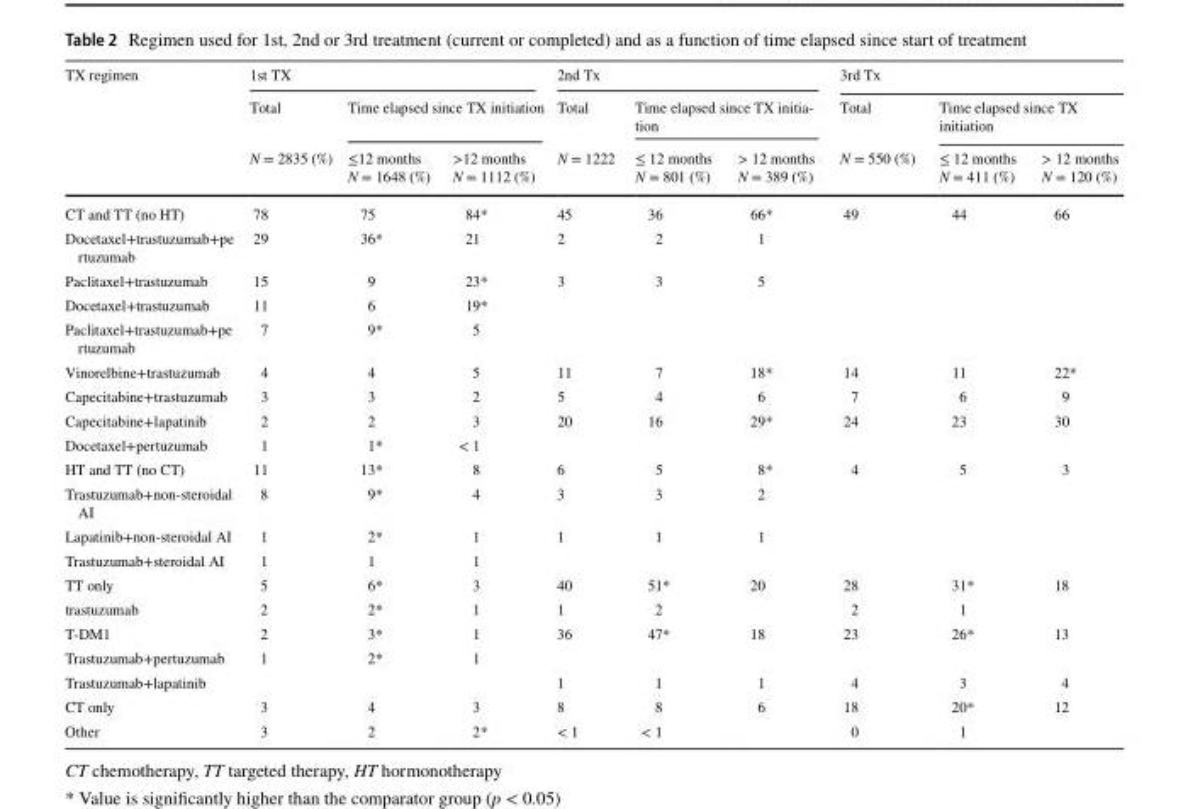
<table><thead><tr><td rowspan="3">TX regimen</td><td colspan="3">1st TX</td><td colspan="3">2nd Tx</td><td colspan="3">3rd Tx</td></tr><tr><td rowspan="2">Total N = 2835 (%)</td><td colspan="2">Time elapsed since TX initiation</td><td rowspan="2">Total N = 1222</td><td colspan="2">Time elapsed since TX initia- tion</td><td rowspan="2">Total N = 550 (%)</td><td colspan="2">Time elapsed since TX initiation</td></tr><tr><td>≤12 months N = 1648 (%)</td><td>&gt;12 months N = 1112 (%)</td><td>≤ 12 months N = 801 (%)</td><td>&gt; 12 months N = 389 (%)</td><td>≤ 12 months N = 411 (%)</td><td>&gt; 12 months N = 120 (%)</td></tr></thead><tbody><tr><td>CT and TT (no HT)</td><td>78</td><td>75</td><td>84*</td><td>45</td><td>36</td><td>66*</td><td>49</td><td>44</td><td>66</td></tr><tr><td>Docetaxel+trastuzumab+pe rtuzumab</td><td>29</td><td>36*</td><td>21</td><td>2</td><td>2</td><td>1</td><td></td><td></td><td></td></tr><tr><td>Paclitaxel+trastuzumab</td><td>15</td><td>9</td><td>23*</td><td>3</td><td>3</td><td>5</td><td></td><td></td><td></td></tr><tr><td>Docetaxel+trastuzumab</td><td>11</td><td>6</td><td>19*</td><td></td><td></td><td></td><td></td><td></td><td></td></tr><tr><td>Paclitaxel+trastuzumab+pe rtuzumab</td><td>7</td><td>9*</td><td>5</td><td></td><td></td><td></td><td></td><td></td><td></td></tr><tr><td>Vinorelbine+trastuzumab</td><td>4</td><td>4</td><td>5</td><td>11</td><td>7</td><td>18*</td><td>14</td><td>11</td><td>22*</td></tr><tr><td>Capecitabine+trastuzumab</td><td>3</td><td>3</td><td>2</td><td>5</td><td>4</td><td>6</td><td>7</td><td>6</td><td>9</td></tr><tr><td>Capecitabine+lapatinib</td><td>2</td><td>2</td><td>3</td><td>20</td><td>16</td><td>29*</td><td>24</td><td>23</td><td>30</td></tr><tr><td>Docetaxel+pertuzumab</td><td>1</td><td>1*</td><td>&lt; 1</td><td></td><td></td><td></td><td></td><td></td><td></td></tr><tr><td>HT and TT (no CT)</td><td>11</td><td>13*</td><td>8</td><td>6</td><td>5</td><td>8*</td><td>4</td><td>5</td><td>3</td></tr><tr><td>Trastuzumab+non-steroidal AI</td><td>8</td><td>9*</td><td>4</td><td>3</td><td>3</td><td>2</td><td></td><td></td><td></td></tr><tr><td>Lapatinib+non-steroidal AI</td><td>1</td><td>2*</td><td>1</td><td>1</td><td>1</td><td>1</td><td></td><td></td><td></td></tr><tr><td>Trastuzumab+steroidal AI</td><td>1</td><td>1</td><td>1</td><td></td><td></td><td></td><td></td><td></td><td></td></tr><tr><td>TT only</td><td>5</td><td>6*</td><td>3</td><td>40</td><td>51*</td><td>20</td><td>28</td><td>31*</td><td>18</td></tr><tr><td>trastuzumab</td><td>2</td><td>2*</td><td>1</td><td>1</td><td>2</td><td></td><td>2</td><td>1</td><td></td></tr><tr><td>T-DM1</td><td>2</td><td>3*</td><td>1</td><td>36</td><td>47*</td><td>18</td><td>23</td><td>26*</td><td>13</td></tr><tr><td>Trastuzumab+pertuzumab</td><td>1</td><td>2*</td><td>1</td><td></td><td></td><td></td><td></td><td></td><td></td></tr><tr><td>Trastuzumab+lapatinib</td><td></td><td></td><td></td><td>1</td><td>1</td><td>1</td><td>4</td><td>3</td><td>4</td></tr><tr><td>CT only</td><td>3</td><td>4</td><td>3</td><td>8</td><td>8</td><td>6</td><td>18</td><td>20*</td><td>12</td></tr><tr><td>Other</td><td>3</td><td>2</td><td>2*</td><td>&lt; 1</td><td>&lt; 1</td><td></td><td>0</td><td>1</td><td></td></tr></tbody></table>